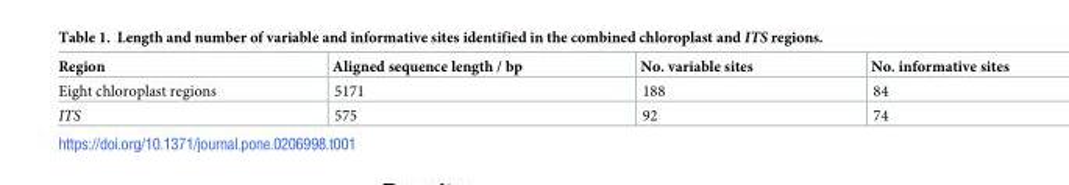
<table><thead><tr><td>Region</td><td>Aligned sequence length / bp</td><td>No. variable sites</td><td>No. informative sites</td></tr></thead><tbody><tr><td>Eight chloroplast regions</td><td>5171</td><td>188</td><td>84</td></tr><tr><td>ITS</td><td>575</td><td>92</td><td>74</td></tr></tbody></table>